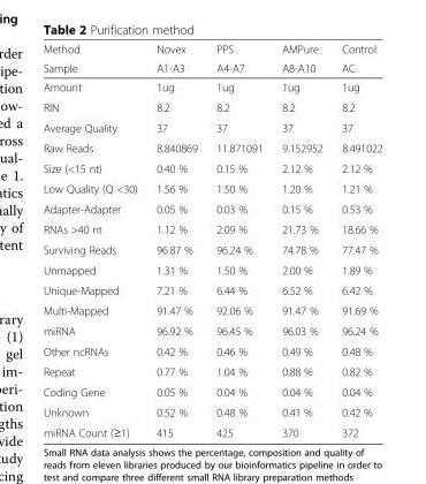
<table><thead><tr><td rowspan="2">Method Sample</td><td rowspan="2">Novex A1-A3</td><td rowspan="2">PPS A4-A7</td><td rowspan="2">AMPure A8-A10</td><td rowspan="2">Control AC</td></tr><tr></tr></thead><tbody><tr><td>Amount</td><td>1ug</td><td>1ug</td><td>1ug</td><td>1ug</td></tr><tr><td>RIN</td><td>8.2</td><td>8.2</td><td>8.2</td><td>8.2</td></tr><tr><td>Average Quality</td><td>37</td><td>37</td><td>37</td><td>37</td></tr><tr><td>Raw Reads</td><td>8.840869</td><td>11.871091</td><td>9.152952</td><td>8.491022</td></tr><tr><td>Size (&lt;15 nt)</td><td>0.40 %</td><td>0.15 %</td><td>2.12 %</td><td>2.12 %</td></tr><tr><td>Low Quality (Q &lt;30)</td><td>1.56 %</td><td>1.50 %</td><td>1.20 %</td><td>1.21 %</td></tr><tr><td>Adapter-Adapter</td><td>0.05 %</td><td>0.03 %</td><td>0.15 %</td><td>0.53 %</td></tr><tr><td>RNAs &gt;40 nt</td><td>1.12 %</td><td>2.09 %</td><td>21.73 %</td><td>18.66 %</td></tr><tr><td>Surviving Reads</td><td>96.87 %</td><td>96.24 %</td><td>74.78 %</td><td>77.47 %</td></tr><tr><td>Unmapped</td><td>1.31 %</td><td>1.50 %</td><td>2.00 %</td><td>1.89 %</td></tr><tr><td>Unique-Mapped</td><td>7.21 %</td><td>6.44 %</td><td>6.52 %</td><td>6.42 %</td></tr><tr><td>Multi-Mapped</td><td>91.47 %</td><td>92.06 %</td><td>91.47 %</td><td>91.69 %</td></tr><tr><td>miRNA</td><td>96.92 %</td><td>96.45 %</td><td>96.03 %</td><td>96.24 %</td></tr><tr><td>Other ncRNAs</td><td>0.42 %</td><td>0.46 %</td><td>0.49 %</td><td>0.48 %</td></tr><tr><td>Repeat</td><td>0.77 %</td><td>1.04 %</td><td>0.88 %</td><td>0.82 %</td></tr><tr><td>Coding Gene</td><td>0.05 %</td><td>0.04 %</td><td>0.04 %</td><td>0.04 %</td></tr><tr><td>Unknown</td><td>0.52 %</td><td>0.48 %</td><td>0.41 %</td><td>0.42 %</td></tr><tr><td>miRNA Count (≥1)</td><td>415</td><td>425</td><td>370</td><td>372</td></tr></tbody></table>